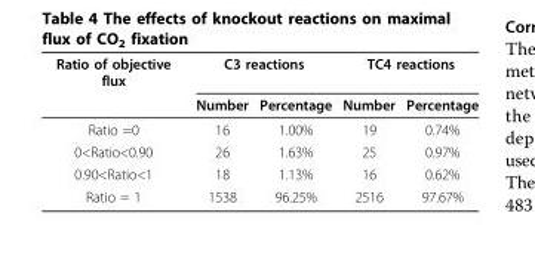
<table><thead><tr><td rowspan="2">Ratio of objective flux</td><td colspan="2">C3 reactions</td><td colspan="2">TC4 reactions</td></tr><tr><td>Number</td><td>Percentage</td><td>Number</td><td>Percentage</td></tr></thead><tbody><tr><td>Ratio ≈0</td><td>16</td><td>1.00%</td><td>19</td><td>0.74%</td></tr><tr><td>0&lt;Ratio&lt;0.90</td><td>26</td><td>1.63%</td><td>25</td><td>0.97%</td></tr><tr><td>0.90&lt;Ratio&lt;1</td><td>18</td><td>1.13%</td><td>16</td><td>0.62%</td></tr><tr><td>Ratio = 1</td><td>1538</td><td>96.25%</td><td>2516</td><td>97.67%</td></tr></tbody></table>